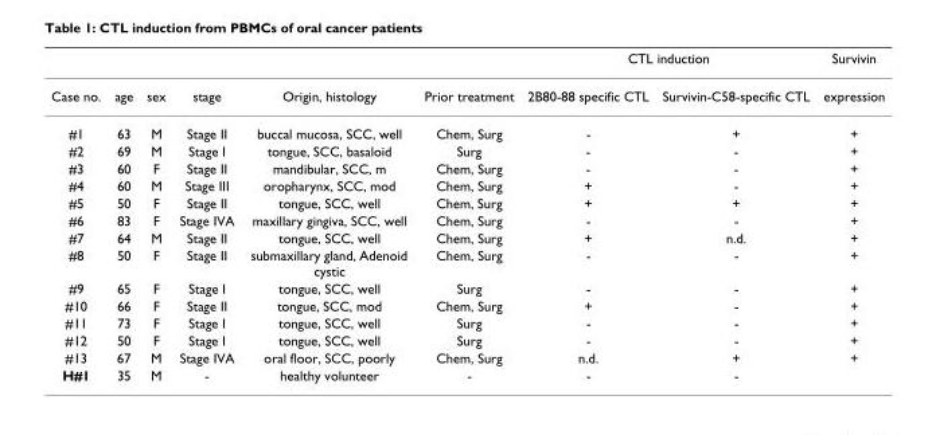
<table><thead><tr><td rowspan="2">Case no.</td><td rowspan="2">age</td><td rowspan="2">sex</td><td rowspan="2">stage</td><td rowspan="2">Origin, histology</td><td rowspan="2">Prior treatment</td><td colspan="2">CTL induction</td><td rowspan="2">Survivin expression</td></tr><tr><td>2B80-88 specific CTL</td><td>Survivin-C58-specific CTL</td></tr></thead><tbody><tr><td>#1</td><td>63</td><td>M</td><td>Stage II</td><td>buccal mucosa, SCC, well</td><td>Chem, Surg</td><td>-</td><td>+</td><td>+</td></tr><tr><td>#2</td><td>69</td><td>M</td><td>Stage I</td><td>tongue, SCC, basaloid</td><td>Surg</td><td>-</td><td>-</td><td>+</td></tr><tr><td>#3</td><td>60</td><td>F</td><td>Stage II</td><td>mandibular, SCC, m</td><td>Chem, Surg</td><td>-</td><td>-</td><td>+</td></tr><tr><td>#4</td><td>60</td><td>M</td><td>Stage III</td><td>oropharynx, SCC, mod</td><td>Chem, Surg</td><td>+</td><td>-</td><td>+</td></tr><tr><td>#5</td><td>50</td><td>F</td><td>Stage II</td><td>tongue, SCC, well</td><td>Chem, Surg</td><td>+</td><td>+</td><td>+</td></tr><tr><td>#6</td><td>83</td><td>F</td><td>Stage IVA</td><td>maxillary gingiva, SCC, well</td><td>Chem, Surg</td><td>-</td><td>-</td><td>+</td></tr><tr><td>#7</td><td>64</td><td>M</td><td>Stage II</td><td>tongue, SCC, well</td><td>Chem, Surg</td><td>+</td><td>n.d.</td><td>+</td></tr><tr><td>#8</td><td>50</td><td>F</td><td>Stage II</td><td>submaxillary gland, Adenoid cystic</td><td>Chem, Surg</td><td>-</td><td>-</td><td>+</td></tr><tr><td>#9</td><td>65</td><td>F</td><td>Stage I</td><td>tongue, SCC, well</td><td>Surg</td><td>-</td><td>-</td><td>+</td></tr><tr><td>#10</td><td>66</td><td>F</td><td>Stage II</td><td>tongue, SCC, mod</td><td>Chem, Surg</td><td>+</td><td>-</td><td>+</td></tr><tr><td>#11</td><td>73</td><td>F</td><td>Stage I</td><td>tongue, SCC, well</td><td>Surg</td><td>-</td><td>-</td><td>+</td></tr><tr><td>#12</td><td>50</td><td>F</td><td>Stage I</td><td>tongue, SCC, well</td><td>Surg</td><td>-</td><td>-</td><td>+</td></tr><tr><td>#13</td><td>67</td><td>M</td><td>Stage IVA</td><td>oral floor, SCC, poorly</td><td>Chem, Surg</td><td>n.d.</td><td>+</td><td>+</td></tr><tr><td>H#1</td><td>35</td><td>M</td><td>-</td><td>healthy volunteer</td><td>-</td><td>-</td><td>-</td><td></td></tr></tbody></table>